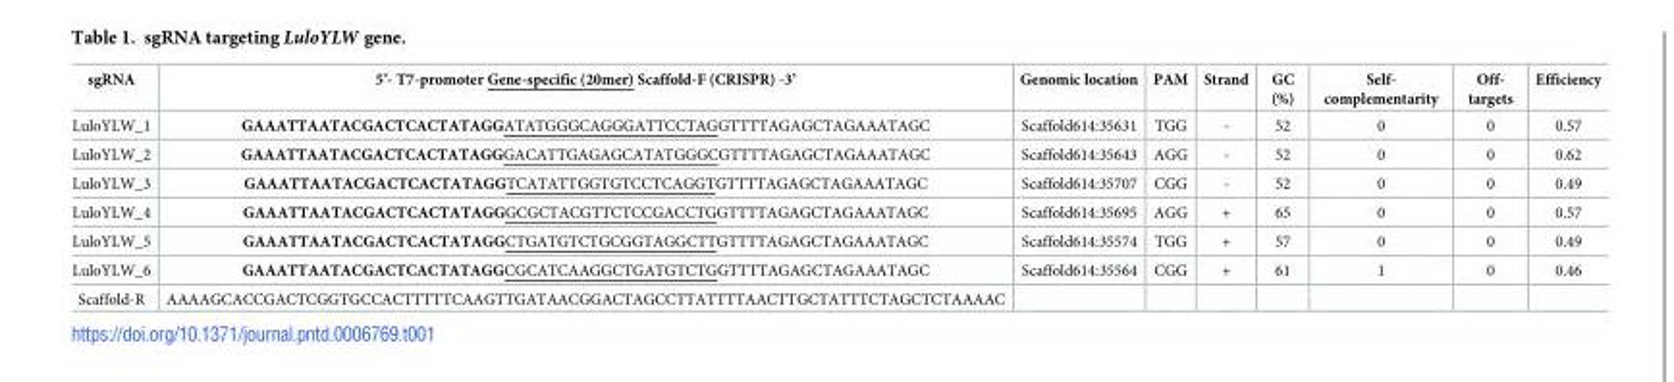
<table><thead><tr><td>sgRNA</td><td>5’- T7-promoter Gene-specific (20mer) Scaffold-F (CRISPR) -3’</td><td>Genomic location</td><td>PAM</td><td>Strand</td><td>GC (%)</td><td>Self- complementarity</td><td>Off- targets</td><td>Efficiency</td></tr></thead><tbody><tr><td>LuloYLW_1</td><td>GAAATTAATACGACTCACTATAGGATATGGGCAGGGATTCCTAGGTTTTAGAGCTAGAAATAGC</td><td>Scaffold614:35631</td><td>TGG</td><td>-</td><td>52</td><td>0</td><td>0</td><td>0.57</td></tr><tr><td>LuloYLW_2</td><td>GAAATTAATACGACTCACTATAGGGACATTGAGAGCATATGGGCGTTTTAGAGCTAGAAATAGC</td><td>Scaffold614:35643</td><td>AGG</td><td>-</td><td>52</td><td>0</td><td>0</td><td>0.62</td></tr><tr><td>LuloYLW_3</td><td>GAAATTAATACGACTCACTATAGGTCATATTGGTGTCCTCAGGTGTTTTAGAGCTAGAAATAGC</td><td>Scaffold614:35707</td><td>CGG</td><td>-</td><td>52</td><td>0</td><td>0</td><td>0.49</td></tr><tr><td>LuloYLW_4</td><td>GAAATTAATACGACTCACTATAGGGCGCTACGTTCTCCGACCTGGTTTTAGAGCTAGAAATAGC</td><td>Scaffold614:35695</td><td>AGG</td><td>+</td><td>65</td><td>0</td><td>0</td><td>0.57</td></tr><tr><td>LuloYLW_5</td><td>GAAATTAATACGACTCACTATAGGCTGATGTCTGCGGTAGGCTTGTTTTAGAGCTAGAAATAGC</td><td>Scaffold614:35574</td><td>TGG</td><td>+</td><td>57</td><td>0</td><td>0</td><td>0.49</td></tr><tr><td>LuloYLW_6</td><td>GAAATTAATACGACTCACTATAGGCGCATCAAGGCTGATGTCTGGTTTTAGAGCTAGAAATAGC</td><td>Scaffold614:35564</td><td>CGG</td><td>+</td><td>61</td><td>1</td><td>0</td><td>0.46</td></tr><tr><td>Scaffold-R</td><td>AAAAGCACCGACTCGGTGCCACTTTTTCAAGTTGATAACGGACTAGCCTTATTTTAACTTGCTATTTCTAGCTCTAAAAC</td><td></td><td></td><td></td><td></td><td></td><td></td><td></td></tr></tbody></table>